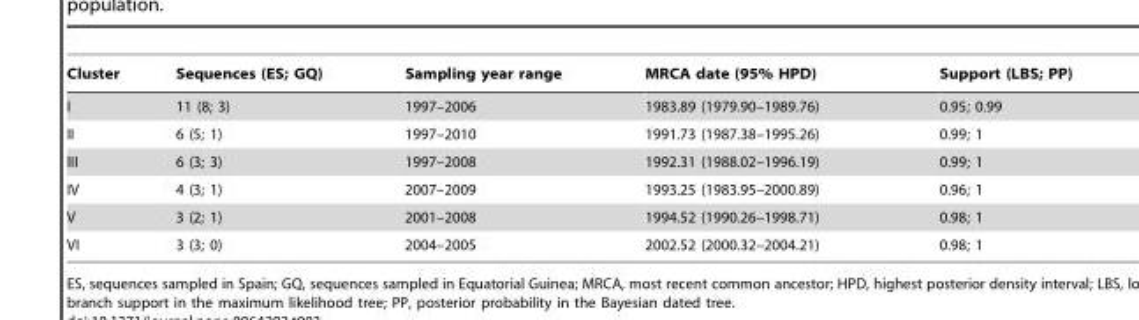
<table><thead><tr><td>Cluster</td><td>Sequences (ES; GQ)</td><td>Sampling year range</td><td>MRCA date (95% HPD)</td><td>Support (LBS; PP)</td></tr></thead><tbody><tr><td>I</td><td>11 (8; 3)</td><td>1997–2006</td><td>1983.89 (1979.90–1989.76)</td><td>0.95; 0.99</td></tr><tr><td>II</td><td>6 (5; 1)</td><td>1997–2010</td><td>1991.73 (1987.38–1995.26)</td><td>0.99; 1</td></tr><tr><td>III</td><td>6 (3; 3)</td><td>1997–2008</td><td>1992.31 (1988.02–1996.19)</td><td>0.99; 1</td></tr><tr><td>IV</td><td>4 (3; 1)</td><td>2007–2009</td><td>1993.25 (1983.95–2000.89)</td><td>0.96; 1</td></tr><tr><td>V</td><td>3 (2; 1)</td><td>2001–2008</td><td>1994.52 (1990.26–1998.71)</td><td>0.98; 1</td></tr><tr><td>VI</td><td>3 (3; 0)</td><td>2004–2005</td><td>2002.52 (2000.32–2004.21)</td><td>0.98; 1</td></tr></tbody></table>